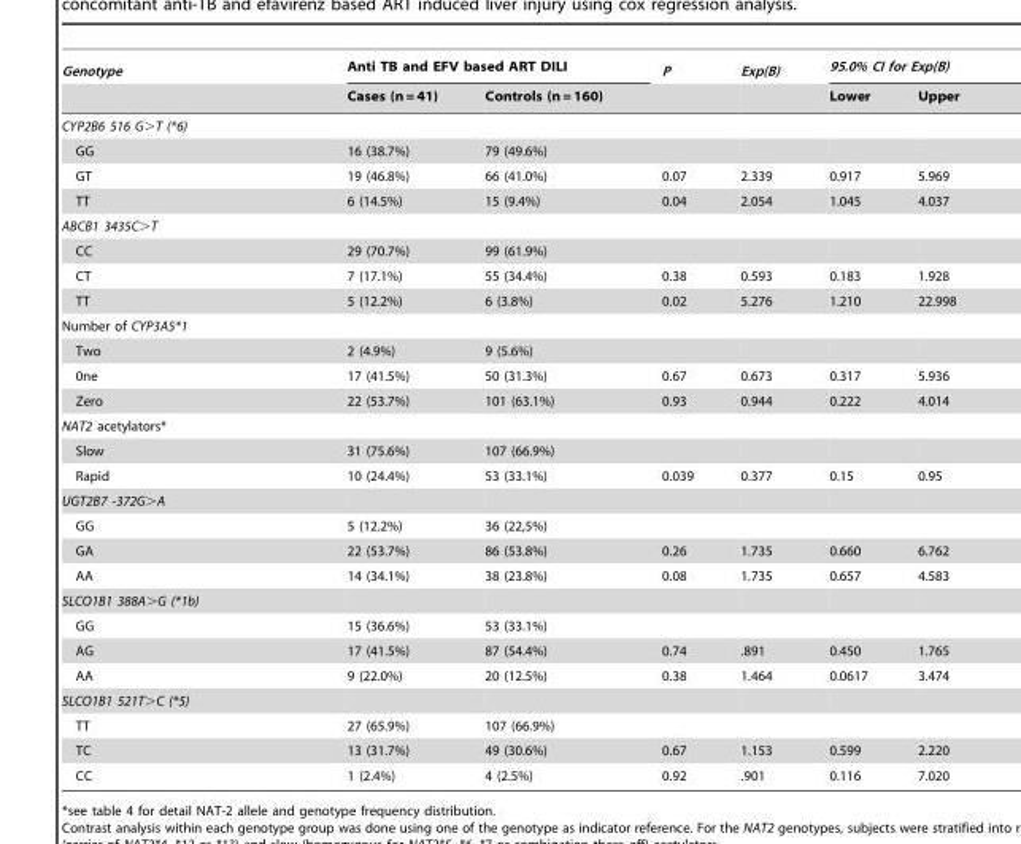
<table><thead><tr><td rowspan="2">Genotype</td><td colspan="2">Anti TB and EFV based ART DILI</td><td rowspan="2">P</td><td rowspan="2">Exp(B)</td><td colspan="2">95.0% CI for Exp(B)</td></tr><tr><td>Cases (n = 41)</td><td>Controls (n = 160)</td><td>Lower</td><td>Upper</td></tr></thead><tbody><tr><td colspan="7">CYP2B6 516 G&gt;T (*6)</td></tr><tr><td>GG</td><td>16 (38.7%)</td><td>79 (49.6%)</td><td></td><td></td><td></td><td></td></tr><tr><td>GT</td><td>19 (46.8%)</td><td>66 (41.0%)</td><td>0.07</td><td>2.339</td><td>0.917</td><td>5.969</td></tr><tr><td>TT</td><td>6 (14.5%)</td><td>15 (9.4%)</td><td>0.04</td><td>2.054</td><td>1.045</td><td>4.037</td></tr><tr><td colspan="7">ABCB1 3435C&gt;T</td></tr><tr><td>CC</td><td>29 (70.7%)</td><td>99 (61.9%)</td><td></td><td></td><td></td><td></td></tr><tr><td>CT</td><td>7 (17.1%)</td><td>55 (34.4%)</td><td>0.38</td><td>0.593</td><td>0.183</td><td>1.928</td></tr><tr><td>TT</td><td>5 (12.2%)</td><td>6 (3.8%)</td><td>0.02</td><td>5.276</td><td>1.210</td><td>22.998</td></tr><tr><td colspan="7">Number of CYP3A5*1</td></tr><tr><td>Two</td><td>2 (4.9%)</td><td>9 (5.6%)</td><td></td><td></td><td></td><td></td></tr><tr><td>0ne</td><td>17 (41.5%)</td><td>50 (31.3%)</td><td>0.67</td><td>0.673</td><td>0.317</td><td>5.936</td></tr><tr><td>Zero</td><td>22 (53.7%)</td><td>101 (63.1%)</td><td>0.93</td><td>0.944</td><td>0.222</td><td>4.014</td></tr><tr><td colspan="7">NAT2 acetylators*</td></tr><tr><td>Slow</td><td>31 (75.6%)</td><td>107 (66.9%)</td><td></td><td></td><td></td><td></td></tr><tr><td>Rapid</td><td>10 (24.4%)</td><td>53 (33.1%)</td><td>0.039</td><td>0.377</td><td>0.15</td><td>0.95</td></tr><tr><td colspan="7">UGT2B7 -372G&gt;A</td></tr><tr><td>GG</td><td>5 (12.2%)</td><td>36 (22,5%)</td><td></td><td></td><td></td><td></td></tr><tr><td>GA</td><td>22 (53.7%)</td><td>86 (53.8%)</td><td>0.26</td><td>1.735</td><td>0.660</td><td>6.762</td></tr><tr><td>AA</td><td>14 (34.1%)</td><td>38 (23.8%)</td><td>0.08</td><td>1.735</td><td>0.657</td><td>4.583</td></tr><tr><td colspan="7">SLCO1B1 388A&gt;G (*1b)</td></tr><tr><td>GG</td><td>15 (36.6%)</td><td>53 (33.1%)</td><td></td><td></td><td></td><td></td></tr><tr><td>AG</td><td>17 (41.5%)</td><td>87 (54.4%)</td><td>0.74</td><td>.891</td><td>0.450</td><td>1.765</td></tr><tr><td>AA</td><td>9 (22.0%)</td><td>20 (12.5%)</td><td>0.38</td><td>1.464</td><td>0.0617</td><td>3.474</td></tr><tr><td colspan="7">SLCO1B1 521T&gt;C (*5)</td></tr><tr><td>TT</td><td>27 (65.9%)</td><td>107 (66.9%)</td><td></td><td></td><td></td><td></td></tr><tr><td>TC</td><td>13 (31.7%)</td><td>49 (30.6%)</td><td>0.67</td><td>1.153</td><td>0.599</td><td>2.220</td></tr><tr><td>CC</td><td>1 (2.4%)</td><td>4 (2.5%)</td><td>0.92</td><td>.901</td><td>0.116</td><td>7.020</td></tr></tbody></table>